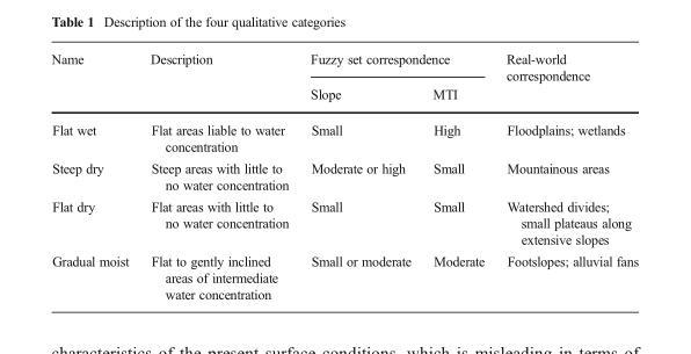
<table><thead><tr><td rowspan="2">Name</td><td rowspan="2">Description</td><td colspan="2">Fuzzy set correspondence</td><td rowspan="2">Real-world correspondence</td></tr><tr><td>Slope</td><td>MTI</td></tr></thead><tbody><tr><td>Flat wet</td><td>Flat areas liable to water concentration</td><td>Small</td><td>High</td><td>Floodplains; wetlands</td></tr><tr><td>Steep dry</td><td>Steep areas with little to no water concentration</td><td>Moderate or high</td><td>Small</td><td>Mountainous areas</td></tr><tr><td>Flat dry</td><td>Flat areas with little to no water concentration</td><td>Small</td><td>Small</td><td>Watershed divides; small plateaus along extensive slopes</td></tr><tr><td>Gradual moist</td><td>Flat to gently inclined areas of intermediate water concentration</td><td>Small or moderate</td><td>Moderate</td><td>Footslopes; alluvial fans</td></tr></tbody></table>